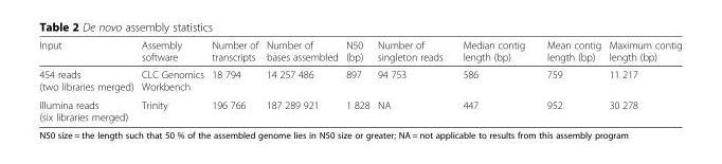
<table><thead><tr><td>Input</td><td>Assembly software</td><td>Number of transcripts</td><td>Number of bases assembled</td><td>N50 (bp)</td><td>Number of singleton reads</td><td>Median contig length (bp)</td><td>Mean contig length (bp)</td><td>Maximum contig length (bp)</td></tr></thead><tbody><tr><td>454 reads (two libraries merged)</td><td>CLC Genomics Workbench</td><td>18 794</td><td>14 257 486</td><td>897</td><td>94 753</td><td>586</td><td>759</td><td>11 217</td></tr><tr><td>Illumina reads (six libraries merged)</td><td>Trinity</td><td>196 766</td><td>187 289 921</td><td>1 828</td><td>NA</td><td>447</td><td>952</td><td>30 278</td></tr></tbody></table>